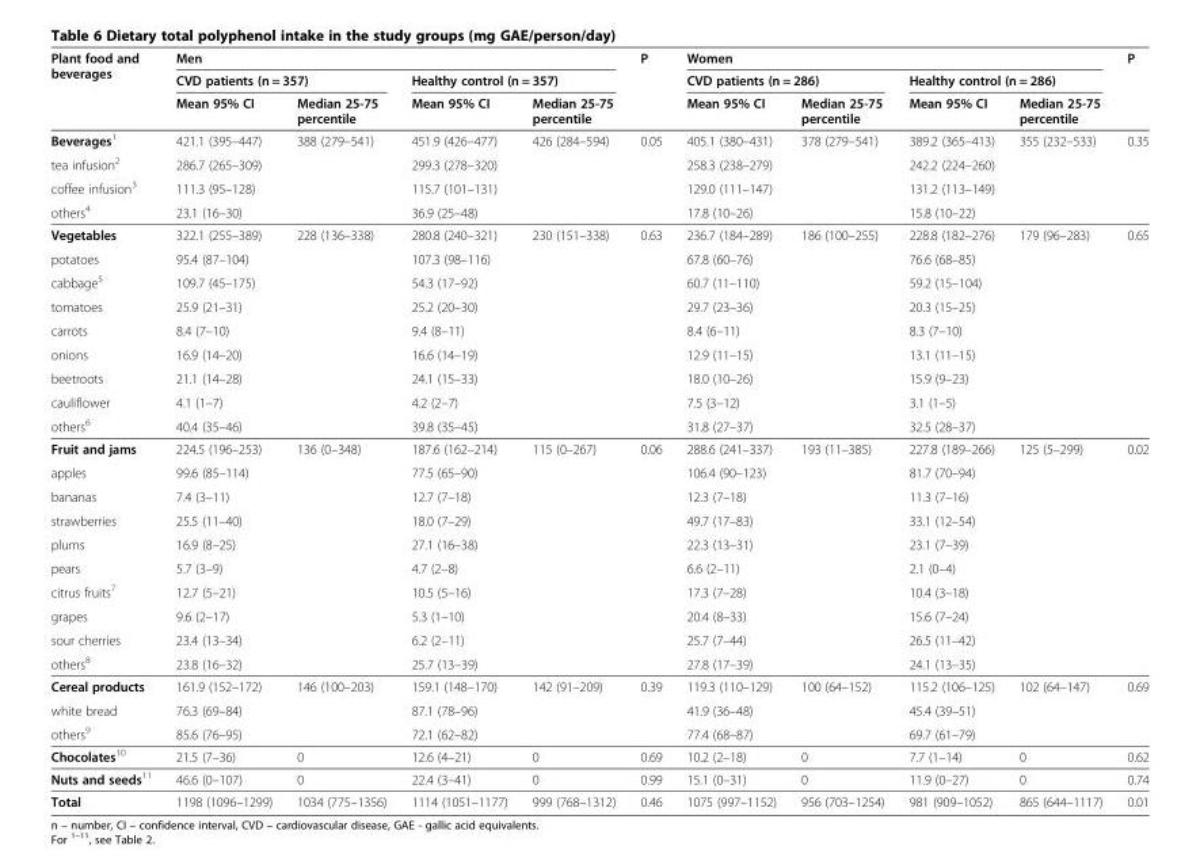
<table><thead><tr><td rowspan="3">Plant food and beverages</td><td colspan="4">Men</td><td rowspan="3">P</td><td colspan="4">Women</td><td rowspan="3">P</td></tr><tr><td colspan="2">CVD patients (n = 357)</td><td colspan="2">Healthy control (n = 357)</td><td colspan="2">CVD patients (n = 286)</td><td colspan="2">Healthy control (n = 286)</td></tr><tr><td>Mean 95% CI</td><td>Median 25-75 percentile</td><td>Mean 95% CI</td><td>Median 25-75 percentile</td><td>Mean 95% CI</td><td>Median 25-75 percentile</td><td>Mean 95% CI</td><td>Median 25-75 percentile</td></tr></thead><tbody><tr><td>Beverages<sup>1</sup></td><td>421.1 (395–447)</td><td>388 (279–541)</td><td>451.9 (426–477)</td><td>426 (284–594)</td><td>0.05</td><td>405.1 (380–431)</td><td>378 (279–541)</td><td>389.2 (365–413)</td><td>355 (232–533)</td><td>0.35</td></tr><tr><td>tea infusion<sup>2</sup></td><td>286.7 (265–309)</td><td></td><td>299.3 (278–320)</td><td></td><td></td><td>258.3 (238–279)</td><td></td><td>242.2 (224–260)</td><td></td><td></td></tr><tr><td>coffee infusion<sup>3</sup></td><td>111.3 (95–128)</td><td></td><td>115.7 (101–131)</td><td></td><td></td><td>129.0 (111–147)</td><td></td><td>131.2 (113–149)</td><td></td><td></td></tr><tr><td>others<sup>4</sup></td><td>23.1 (16–30)</td><td></td><td>36.9 (25–48)</td><td></td><td></td><td>17.8 (10–26)</td><td></td><td>15.8 (10–22)</td><td></td><td></td></tr><tr><td>Vegetables</td><td>322.1 (255–389)</td><td>228 (136–338)</td><td>280.8 (240–321)</td><td>230 (151–338)</td><td>0.63</td><td>236.7 (184–289)</td><td>186 (100–255)</td><td>228.8 (182–276)</td><td>179 (96–283)</td><td>0.65</td></tr><tr><td>potatoes</td><td>95.4 (87–104)</td><td></td><td>107.3 (98–116)</td><td></td><td></td><td>67.8 (60–76)</td><td></td><td>76.6 (68–85)</td><td></td><td></td></tr><tr><td>cabbage<sup>5</sup></td><td>109.7 (45–175)</td><td></td><td>54.3 (17–92)</td><td></td><td></td><td>60.7 (11–110)</td><td></td><td>59.2 (15–104)</td><td></td><td></td></tr><tr><td>tomatoes</td><td>25.9 (21–31)</td><td></td><td>25.2 (20–30)</td><td></td><td></td><td>29.7 (23–36)</td><td></td><td>20.3 (15–25)</td><td></td><td></td></tr><tr><td>carrots</td><td>8.4 (7–10)</td><td></td><td>9.4 (8–11)</td><td></td><td></td><td>8.4 (6–11)</td><td></td><td>8.3 (7–10)</td><td></td><td></td></tr><tr><td>onions</td><td>16.9 (14–20)</td><td></td><td>16.6 (14–19)</td><td></td><td></td><td>12.9 (11–15)</td><td></td><td>13.1 (11–15)</td><td></td><td></td></tr><tr><td>beetroots</td><td>21.1 (14–28)</td><td></td><td>24.1 (15–33)</td><td></td><td></td><td>18.0 (10–26)</td><td></td><td>15.9 (9–23)</td><td></td><td></td></tr><tr><td>cauliflower</td><td>4.1 (1–7)</td><td></td><td>4.2 (2–7)</td><td></td><td></td><td>7.5 (3–12)</td><td></td><td>3.1 (1–5)</td><td></td><td></td></tr><tr><td>others<sup>6</sup></td><td>40.4 (35–46)</td><td></td><td>39.8 (35–45)</td><td></td><td></td><td>31.8 (27–37)</td><td></td><td>32.5 (28–37)</td><td></td><td></td></tr><tr><td>Fruit and jams</td><td>224.5 (196–253)</td><td>136 (0–348)</td><td>187.6 (162–214)</td><td>115 (0–267)</td><td>0.06</td><td>288.6 (241–337)</td><td>193 (11–385)</td><td>227.8 (189–266)</td><td>125 (5–299)</td><td>0.02</td></tr><tr><td>apples</td><td>99.6 (85–114)</td><td></td><td>77.5 (65–90)</td><td></td><td></td><td>106.4 (90–123)</td><td></td><td>81.7 (70–94)</td><td></td><td></td></tr><tr><td>bananas</td><td>7.4 (3–11)</td><td></td><td>12.7 (7–18)</td><td></td><td></td><td>12.3 (7–18)</td><td></td><td>11.3 (7–16)</td><td></td><td></td></tr><tr><td>strawberries</td><td>25.5 (11–40)</td><td></td><td>18.0 (7–29)</td><td></td><td></td><td>49.7 (17–83)</td><td></td><td>33.1 (12–54)</td><td></td><td></td></tr><tr><td>plums</td><td>16.9 (8–25)</td><td></td><td>27.1 (16–38)</td><td></td><td></td><td>22.3 (13–31)</td><td></td><td>23.1 (7–39)</td><td></td><td></td></tr><tr><td>pears</td><td>5.7 (3–9)</td><td></td><td>4.7 (2–8)</td><td></td><td></td><td>6.6 (2–11)</td><td></td><td>2.1 (0–4)</td><td></td><td></td></tr><tr><td>citrus fruits<sup>7</sup></td><td>12.7 (5–21)</td><td></td><td>10.5 (5–16)</td><td></td><td></td><td>17.3 (7–28)</td><td></td><td>10.4 (3–18)</td><td></td><td></td></tr><tr><td>grapes</td><td>9.6 (2–17)</td><td></td><td>5.3 (1–10)</td><td></td><td></td><td>20.4 (8–33)</td><td></td><td>15.6 (7–24)</td><td></td><td></td></tr><tr><td>sour cherries</td><td>23.4 (13–34)</td><td></td><td>6.2 (2–11)</td><td></td><td></td><td>25.7 (7–44)</td><td></td><td>26.5 (11–42)</td><td></td><td></td></tr><tr><td>others<sup>8</sup></td><td>23.8 (16–32)</td><td></td><td>25.7 (13–39)</td><td></td><td></td><td>27.8 (17–39)</td><td></td><td>24.1 (13–35)</td><td></td><td></td></tr><tr><td>Cereal products</td><td>161.9 (152–172)</td><td>146 (100–203)</td><td>159.1 (148–170)</td><td>142 (91–209)</td><td>0.39</td><td>119.3 (110–129)</td><td>100 (64–152)</td><td>115.2 (106–125)</td><td>102 (64–147)</td><td>0.69</td></tr><tr><td>white bread</td><td>76.3 (69–84)</td><td></td><td>87.1 (78–96)</td><td></td><td></td><td>41.9 (36–48)</td><td></td><td>45.4 (39–51)</td><td></td><td></td></tr><tr><td>others<sup>9</sup></td><td>85.6 (76–95)</td><td></td><td>72.1 (62–82)</td><td></td><td></td><td>77.4 (68–87)</td><td></td><td>69.7 (61–79)</td><td></td><td></td></tr><tr><td>Chocolates<sup>10</sup></td><td>21.5 (7–36)</td><td>0</td><td>12.6 (4–21)</td><td>0</td><td>0.69</td><td>10.2 (2–18)</td><td>0</td><td>7.7 (1–14)</td><td>0</td><td>0.62</td></tr><tr><td>Nuts and seeds<sup>11</sup></td><td>46.6 (0–107)</td><td>0</td><td>22.4 (3–41)</td><td>0</td><td>0.99</td><td>15.1 (0–31)</td><td>0</td><td>11.9 (0–27)</td><td>0</td><td>0.74</td></tr><tr><td>Total</td><td>1198 (1096–1299)</td><td>1034 (775–1356)</td><td>1114 (1051–1177)</td><td>999 (768–1312)</td><td>0.46</td><td>1075 (997–1152)</td><td>956 (703–1254)</td><td>981 (909–1052)</td><td>865 (644–1117)</td><td>0.01</td></tr></tbody></table>